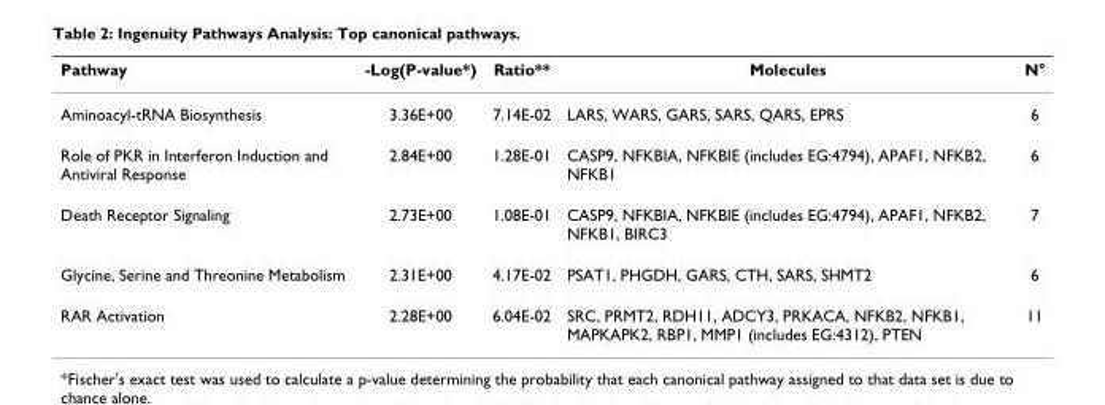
<table><thead><tr><td>Pathway</td><td>-Log(P-value*)</td><td>Ratio**</td><td>Molecules</td><td>N°</td></tr></thead><tbody><tr><td>Aminoacyl-tRNA Biosynthesis</td><td>3.36E+00</td><td>7.14E-02</td><td>LARS, WARS, GARS, SARS, QARS, EPRS</td><td>6</td></tr><tr><td>Role of PKR in Interferon Induction and Antiviral Response</td><td>2.84E+00</td><td>1.28E-01</td><td>CASP9, NFKBIA, NFKBIE (includes EG:4794), APAF1, NFKB2, NFKB1</td><td>6</td></tr><tr><td>Death Receptor Signaling</td><td>2.73E+00</td><td>1.08E-01</td><td>CASP9, NFKBIA, NFKBIE (includes EG:4794), APAF1, NFKB2, NFKB1, BIRC3</td><td>7</td></tr><tr><td>Glycine, Serine and Threonine Metabolism</td><td>2.31E+00</td><td>4.17E-02</td><td>PSAT1, PHGDH, GARS, CTH, SARS, SHMT2</td><td>6</td></tr><tr><td>RAR Activation</td><td>2.28E+00</td><td>6.04E-02</td><td>SRC, PRMT2, RDH11, ADCY3, PRKACA, NFKB2, NFKB1, MAPKAPK2, RBP1, MMP1 (includes EG:4312), PTEN</td><td>11</td></tr></tbody></table>